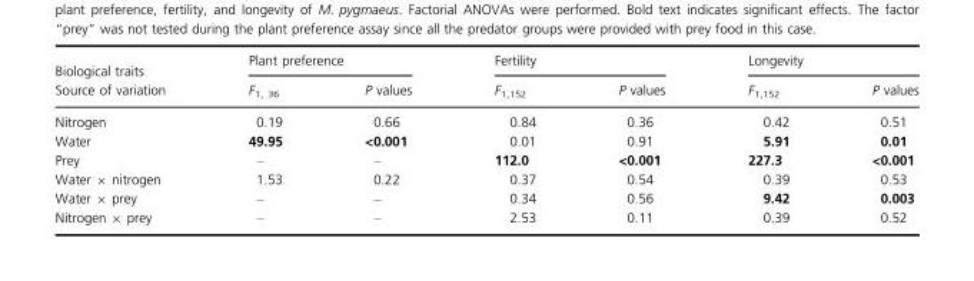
<table><thead><tr><td rowspan="2">Biological traits Source of variation</td><td colspan="2">Plant preference</td><td colspan="2">Fertility</td><td colspan="2">Longevity</td></tr><tr><td>F<sub>1, 36</sub></td><td>P values</td><td>F<sub>1,152</sub></td><td>P values</td><td>F<sub>1,152</sub></td><td>P values</td></tr></thead><tbody><tr><td>Nitrogen</td><td>0.19</td><td>0.66</td><td>0.84</td><td>0.36</td><td>0.42</td><td>0.51</td></tr><tr><td>Water</td><td>49.95</td><td>&lt;0.001</td><td>0.01</td><td>0.91</td><td>5.91</td><td>0.01</td></tr><tr><td>Prey</td><td>–</td><td>–</td><td>112.0</td><td>&lt;0.001</td><td>227.3</td><td>&lt;0.001</td></tr><tr><td>Water × nitrogen</td><td>1.53</td><td>0.22</td><td>0.37</td><td>0.54</td><td>0.39</td><td>0.53</td></tr><tr><td>Water × prey</td><td>–</td><td>–</td><td>0.34</td><td>0.56</td><td>9.42</td><td>0.003</td></tr><tr><td>Nitrogen × prey</td><td>–</td><td>–</td><td>2.53</td><td>0.11</td><td>0.39</td><td>0.52</td></tr></tbody></table>